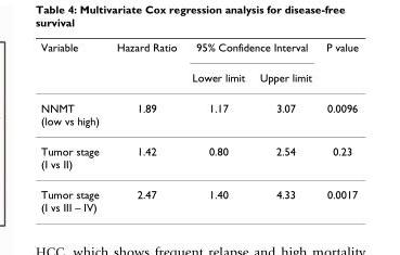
<table><thead><tr><td rowspan="2">Variable</td><td rowspan="2">Hazard Ratio</td><td colspan="2">95% Confidence Interval</td><td rowspan="2">P value</td></tr><tr><td>Lower limit</td><td>Upper limit</td></tr></thead><tbody><tr><td>NNMT (low vs high)</td><td>1.89</td><td>1.17</td><td>3.07</td><td>0.0096</td></tr><tr><td>Tumor stage (I vs II)</td><td>1.42</td><td>0.80</td><td>2.54</td><td>0.23</td></tr><tr><td>Tumor stage (I vs III – IV)</td><td>2.47</td><td>1.40</td><td>4.33</td><td>0.0017</td></tr></tbody></table>